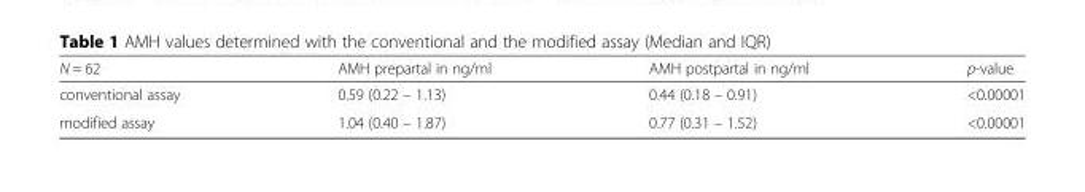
<table><thead><tr><td>N = 62</td><td>AMH prepartal in ng/ml</td><td>AMH postpartal in ng/ml</td><td>p-value</td></tr></thead><tbody><tr><td>conventional assay</td><td>0.59 (0.22 – 1.13)</td><td>0.44 (0.18 – 0.91)</td><td>&lt;0.00001</td></tr><tr><td>modified assay</td><td>1.04 (0.40 – 1.87)</td><td>0.77 (0.31 – 1.52)</td><td>&lt;0.00001</td></tr></tbody></table>